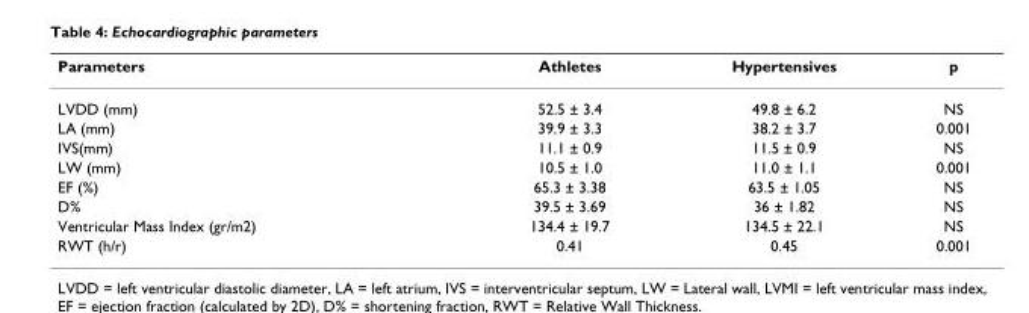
<table><thead><tr><td>Parameters</td><td>Athletes</td><td>Hypertensives</td><td>p</td></tr></thead><tbody><tr><td>LVDD (mm)</td><td>52.5 ± 3.4</td><td>49.8 ± 6.2</td><td>NS</td></tr><tr><td>LA (mm)</td><td>39.9 ± 3.3</td><td>38.2 ± 3.7</td><td>0.001</td></tr><tr><td>IVS(mm)</td><td>11.1 ± 0.9</td><td>11.5 ± 0.9</td><td>NS</td></tr><tr><td>LW (mm)</td><td>10.5 ± 1.0</td><td>11.0 ± 1.1</td><td>0.001</td></tr><tr><td>EF (%)</td><td>65.3 ± 3.38</td><td>63.5 ± 1.05</td><td>NS</td></tr><tr><td>D%</td><td>39.5 ± 3.69</td><td>36 ± 1.82</td><td>NS</td></tr><tr><td>Ventricular Mass Index (gr/m2)</td><td>134.4 ± 19.7</td><td>134.5 ± 22.1</td><td>NS</td></tr><tr><td>RWT (h/r)</td><td>0.41</td><td>0.45</td><td>0.001</td></tr></tbody></table>